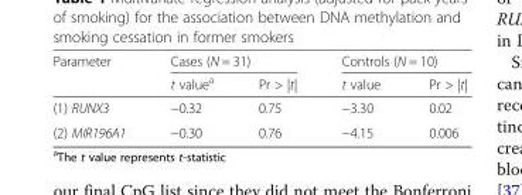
<table><thead><tr><td rowspan="2">Parameter</td><td colspan="2">Cases (N = 31)</td><td colspan="2">Controls (N = 10)</td></tr><tr><td>t value<sup>a</sup></td><td>Pr &gt; |t|</td><td>t value</td><td>Pr &gt; |t|</td></tr></thead><tbody><tr><td>(1) RUNX3</td><td>−0.32</td><td>0.75</td><td>−3.30</td><td>0.02</td></tr><tr><td>(2) MIR196A1</td><td>−0.30</td><td>0.76</td><td>−4.15</td><td>0.006</td></tr></tbody></table>